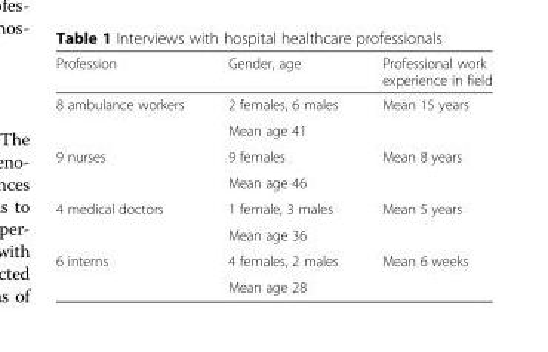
<table><thead><tr><td>Profession</td><td>Gender, age</td><td>Professional work experience in field</td></tr></thead><tbody><tr><td rowspan="2">8 ambulance workers</td><td>2 females, 6 males</td><td rowspan="2">Mean 15 years</td></tr><tr><td>Mean age 41</td></tr><tr><td rowspan="2">9 nurses</td><td>9 females</td><td rowspan="2">Mean 8 years</td></tr><tr><td>Mean age 46</td></tr><tr><td rowspan="2">4 medical doctors</td><td>1 female, 3 males</td><td rowspan="2">Mean 5 years</td></tr><tr><td>Mean age 36</td></tr><tr><td rowspan="2">6 interns</td><td>4 females, 2 males</td><td rowspan="2">Mean 6 weeks</td></tr><tr><td>Mean age 28</td></tr></tbody></table>